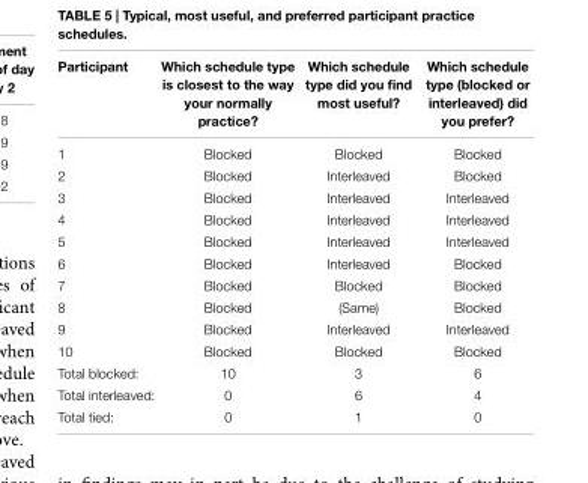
<table><thead><tr><td>Participant</td><td>Which schedule type is closest to the way your normally practice?</td><td>Which schedule type did you find most useful?</td><td>Which schedule type (blocked or interleaved) did you prefer?</td></tr></thead><tbody><tr><td>1</td><td>Blocked</td><td>Blocked</td><td>Blocked</td></tr><tr><td>2</td><td>Blocked</td><td>Interleaved</td><td>Blocked</td></tr><tr><td>3</td><td>Blocked</td><td>Interleaved</td><td>Interleaved</td></tr><tr><td>4</td><td>Blocked</td><td>Interleaved</td><td>Interleaved</td></tr><tr><td>5</td><td>Blocked</td><td>Interleaved</td><td>Interleaved</td></tr><tr><td>6</td><td>Blocked</td><td>Interleaved</td><td>Blocked</td></tr><tr><td>7</td><td>Blocked</td><td>Blocked</td><td>Blocked</td></tr><tr><td>8</td><td>Blocked</td><td>(Same)</td><td>Blocked</td></tr><tr><td>9</td><td>Blocked</td><td>Interleaved</td><td>Interleaved</td></tr><tr><td>10</td><td>Blocked</td><td>Blocked</td><td>Blocked</td></tr><tr><td>Total blocked:</td><td>10</td><td>3</td><td>6</td></tr><tr><td>Total interleaved:</td><td>0</td><td>6</td><td>4</td></tr><tr><td>Total tied:</td><td>0</td><td>1</td><td>0</td></tr></tbody></table>